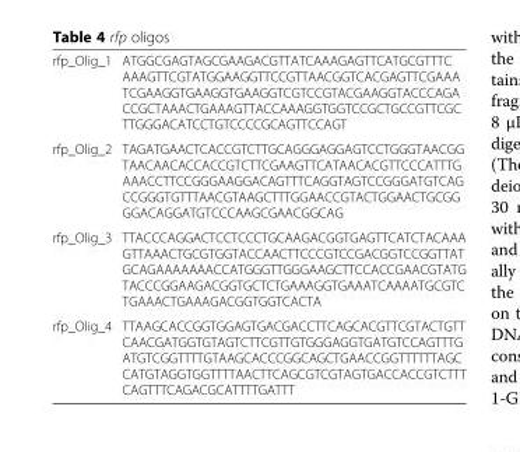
<table><tbody><tr><td>rfp_Olig_1</td><td>ATGGCGAGTAGCGAAGACGTTATCAAAGAGTTCATGCGTTTC AAAGTTCGTATGGAAGGTTCCGTTAACGGTCACGAGTTCGAAA TCGAAGGTGAAGGTGAAGGTCGTCCGTACGAAGGTACCCAGA CCGCTAAACTGAAAGTTACCAAAGGTGGTCCGCTGCCGTTCGC TTGGGACATCCTGTCCCCGCAGTTCCAGT</td></tr><tr><td>rfp_Olig_2</td><td>TAGATGAACTCACCGTCTTGCAGGGAGGAGTCCTGGGTAACGG TAACAACACCACCGTCTTCGAAGTTCATAACACGTTCCCATTTG AAACCTTCCGGGAAGGACAGTTTCAGGTAGTCCGGGATGTCAG CCGGGTGTTTAACGTAAGCTTTGGAACCGTACTGGAACTGCGG GGACAGGATGTCCCAAGCGAACGGCAG</td></tr><tr><td>rfp_Olig_3</td><td>TTACCCAGGACTCCTCCCTGCAAGACGGTGAGTTCATCTACAAA GTTAAACTGCGTGGTACCAACTTCCCGTCCGACGGTCCGGTTAT GCAGAAAAAAACCATGGGTTGGGAAGCTTCCACCGAACGTATG TACCCGGAAGACGGTGCTCTGAAAGGTGAAATCAAAATGCGTC TGAAACTGAAAGACGGTGGTCACTA</td></tr><tr><td>rfp_Olig_4</td><td>TTAAGCACCGGTGGAGTGACGACCTTCAGCACGTTCGTACTGTT CAACGATGGTGTAGTCTTCGTTGTGGGAGGTGATGTCCAGTTTG ATGTCGGTTTTGTAAGCACCCGGCAGCTGAACCGGTTTTTTAGC CATGTAGGTGGTTTTAACTTCAGCGTCGTAGTGACCACCGTCTTT CAGTTTCAGACGCATTTTGATTT</td></tr></tbody></table>